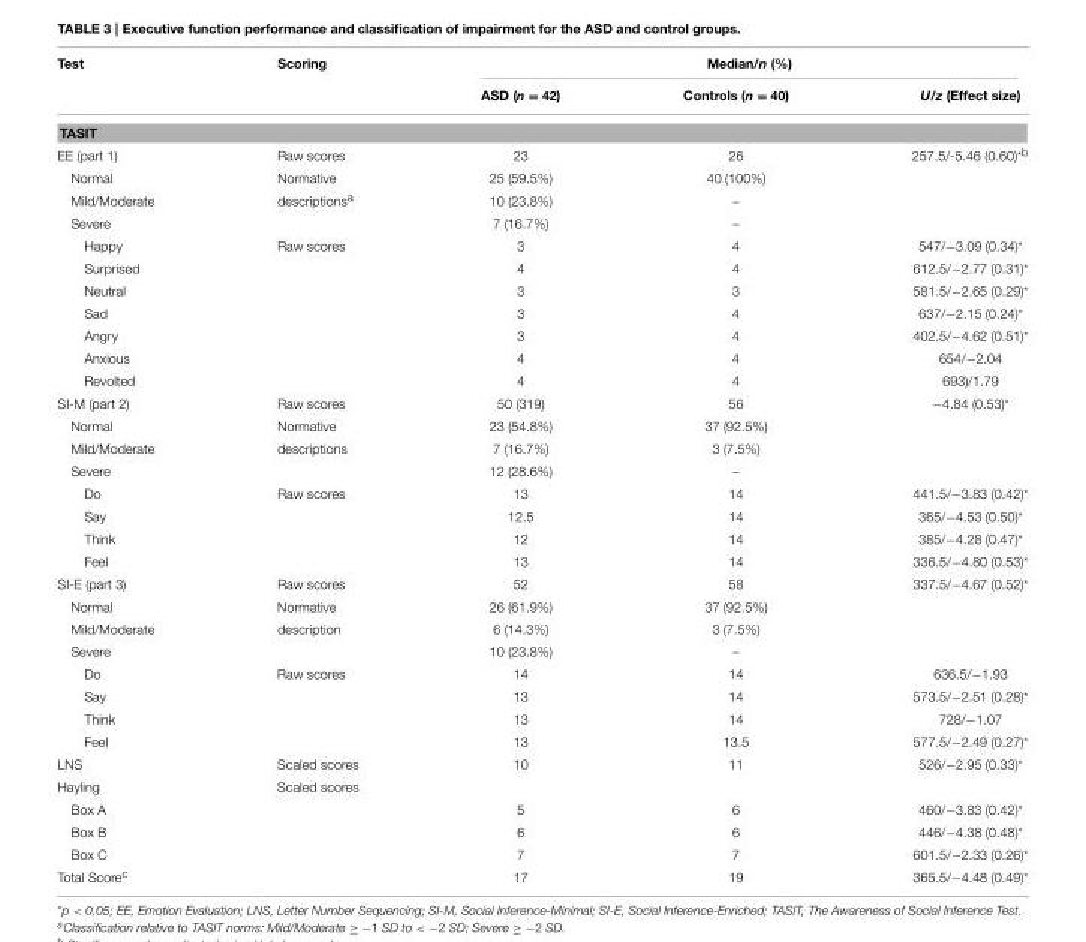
<table><thead><tr><td rowspan="2">Test</td><td rowspan="2">Scoring</td><td colspan="3">Median/n (%)</td></tr><tr><td>ASD (n = 42)</td><td>Controls (n = 40)</td><td>U/z (Effect size)</td></tr></thead><tbody><tr><td colspan="5">TASIT</td></tr><tr><td>EE (part 1)</td><td>Raw scores</td><td>23</td><td>26</td><td>257.5/-5.46 (0.60)<sup>*b</sup></td></tr><tr><td>Normal</td><td>Normative</td><td>25 (59.5%)</td><td>40 (100%)</td><td></td></tr><tr><td>Mild/Moderate</td><td>descriptions<sup>a</sup></td><td>10 (23.8%)</td><td>–</td><td></td></tr><tr><td>Severe</td><td></td><td>7 (16.7%)</td><td>–</td><td></td></tr><tr><td>Happy</td><td>Raw scores</td><td>3</td><td>4</td><td>547/−3.09 (0.34)*</td></tr><tr><td>Surprised</td><td></td><td>4</td><td>4</td><td>612.5/−2.77 (0.31)*</td></tr><tr><td>Neutral</td><td></td><td>3</td><td>3</td><td>581.5/−2.65 (0.29)*</td></tr><tr><td>Sad</td><td></td><td>3</td><td>4</td><td>637/−2.15 (0.24)*</td></tr><tr><td>Angry</td><td></td><td>3</td><td>4</td><td>402.5/−4.62 (0.51)*</td></tr><tr><td>Anxious</td><td></td><td>4</td><td>4</td><td>654/−2.04</td></tr><tr><td>Revolted</td><td></td><td>4</td><td>4</td><td>693)/1.79</td></tr><tr><td>SI-M (part 2)</td><td>Raw scores</td><td>50 (319)</td><td>56</td><td>−4.84 (0.53)*</td></tr><tr><td>Normal</td><td>Normative</td><td>23 (54.8%)</td><td>37 (92.5%)</td><td></td></tr><tr><td>Mild/Moderate</td><td>descriptions</td><td>7 (16.7%)</td><td>3 (7.5%)</td><td></td></tr><tr><td>Severe</td><td></td><td>12 (28.6%)</td><td>–</td><td></td></tr><tr><td>Do</td><td>Raw scores</td><td>13</td><td>14</td><td>441.5/−3.83 (0.42)*</td></tr><tr><td>Say</td><td></td><td>12.5</td><td>14</td><td>365/−4.53 (0.50)*</td></tr><tr><td>Think</td><td></td><td>12</td><td>14</td><td>385/−4.28 (0.47)*</td></tr><tr><td>Feel</td><td></td><td>13</td><td>14</td><td>336.5/−4.80 (0.53)*</td></tr><tr><td>SI-E (part 3)</td><td>Raw scores</td><td>52</td><td>58</td><td>337.5/−4.67 (0.52)*</td></tr><tr><td>Normal</td><td>Normative</td><td>26 (61.9%)</td><td>37 (92.5%)</td><td></td></tr><tr><td>Mild/Moderate</td><td>description</td><td>6 (14.3%)</td><td>3 (7.5%)</td><td></td></tr><tr><td>Severe</td><td></td><td>10 (23.8%)</td><td>–</td><td></td></tr><tr><td>Do</td><td>Raw scores</td><td>14</td><td>14</td><td>636.5/−1.93</td></tr><tr><td>Say</td><td></td><td>13</td><td>14</td><td>573.5/−2.51 (0.28)*</td></tr><tr><td>Think</td><td></td><td>13</td><td>14</td><td>728/−1.07</td></tr><tr><td>Feel</td><td></td><td>13</td><td>13.5</td><td>577.5/−2.49 (0.27)*</td></tr><tr><td>LNS</td><td>Scaled scores</td><td>10</td><td>11</td><td>526/−2.95 (0.33)*</td></tr><tr><td>Hayling</td><td>Scaled scores</td><td></td><td></td><td></td></tr><tr><td>Box A</td><td></td><td>5</td><td>6</td><td>460/−3.83 (0.42)*</td></tr><tr><td>Box B</td><td></td><td>6</td><td>6</td><td>446/−4.38 (0.48)*</td></tr><tr><td>Box C</td><td></td><td>7</td><td>7</td><td>601.5/−2.33 (0.26)*</td></tr><tr><td>Total Score<sup>c</sup></td><td></td><td>17</td><td>19</td><td>365.5/−4.48 (0.49)*</td></tr></tbody></table>